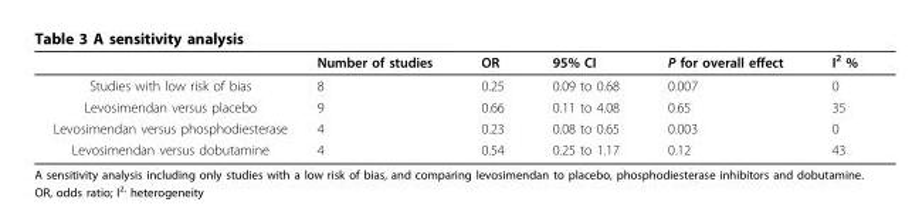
<table><thead><tr><td></td><td>Number of studies</td><td>OR</td><td>95% CI</td><td>P for overall effect</td><td>I<sup>2</sup> %</td></tr></thead><tbody><tr><td>Studies with low risk of bias</td><td>8</td><td>0.25</td><td>0.09 to 0.68</td><td>0.007</td><td>0</td></tr><tr><td>Levosimendan versus placebo</td><td>9</td><td>0.66</td><td>0.11 to 4.08</td><td>0.65</td><td>35</td></tr><tr><td>Levosimendan versus phosphodiesterase</td><td>4</td><td>0.23</td><td>0.08 to 0.65</td><td>0.003</td><td>0</td></tr><tr><td>Levosimendan versus dobutamine</td><td>4</td><td>0.54</td><td>0.25 to 1.17</td><td>0.12</td><td>43</td></tr></tbody></table>